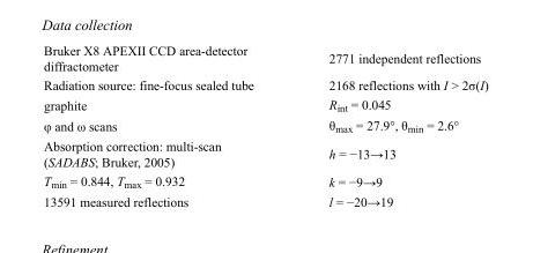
<table><tbody><tr><td>Bruker X8 APEXII CCD area-detector diffractometer</td><td>2771 independent reflections</td></tr><tr><td>Radiation source: fine-focus sealed tube</td><td>2168 reflections with I &gt; 2σ(I)</td></tr><tr><td>graphite</td><td>R<sub>int</sub> = 0.045</td></tr><tr><td>φ and ω scans</td><td>θ<sub>max</sub> = 27.9°, θ<sub>min</sub> = 2.6°</td></tr><tr><td>Absorption correction: multi-scan (SADABS; Bruker, 2005)</td><td>h = −13→13</td></tr><tr><td>T<sub>min</sub> = 0.844, T<sub>max</sub> = 0.932</td><td>k = −9→9</td></tr><tr><td>13591 measured reflections</td><td>l = −20→19</td></tr></tbody></table>